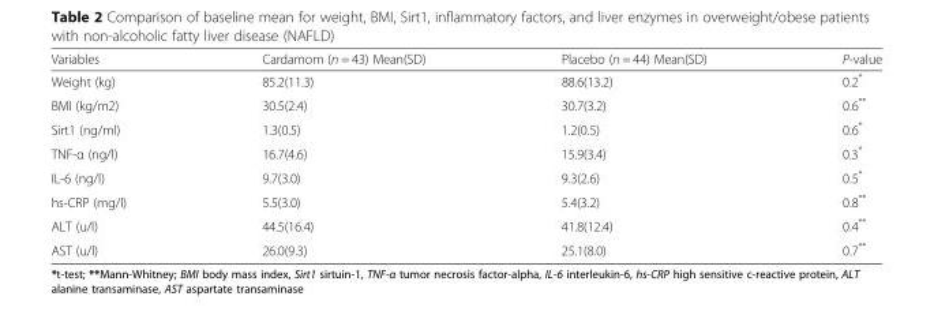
<table><thead><tr><td>Variables</td><td>Cardamom (n = 43) Mean(SD)</td><td>Placebo (n = 44) Mean(SD)</td><td>P-value</td></tr></thead><tbody><tr><td>Weight (kg)</td><td>85.2(11.3)</td><td>88.6(13.2)</td><td>0.2*</td></tr><tr><td>BMI (kg/m2)</td><td>30.5(2.4)</td><td>30.7(3.2)</td><td>0.6**</td></tr><tr><td>Sirt1 (ng/ml)</td><td>1.3(0.5)</td><td>1.2(0.5)</td><td>0.6*</td></tr><tr><td>TNF-α (ng/l)</td><td>16.7(4.6)</td><td>15.9(3.4)</td><td>0.3*</td></tr><tr><td>IL-6 (ng/l)</td><td>9.7(3.0)</td><td>9.3(2.6)</td><td>0.5*</td></tr><tr><td>hs-CRP (mg/l)</td><td>5.5(3.0)</td><td>5.4(3.2)</td><td>0.8**</td></tr><tr><td>ALT (u/l)</td><td>44.5(16.4)</td><td>41.8(12.4)</td><td>0.4**</td></tr><tr><td>AST (u/l)</td><td>26.0(9.3)</td><td>25.1(8.0)</td><td>0.7**</td></tr></tbody></table>